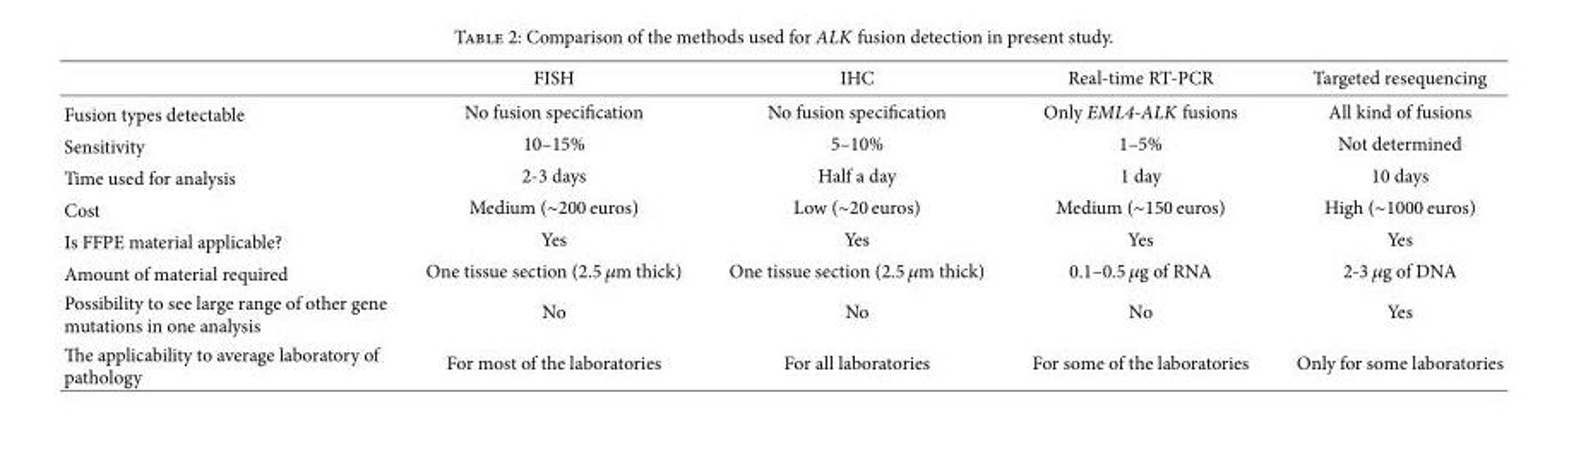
<table><thead><tr><td></td><td>FISH</td><td>IHC</td><td>Real-time RT-PCR</td><td>Targeted resequencing</td></tr></thead><tbody><tr><td>Fusion types detectable</td><td>No fusion speci�cation</td><td>No fusion speci�cation</td><td>Only EML4-ALK fusions</td><td>All kind of fusions</td></tr><tr><td>Sensitivity</td><td>10–15%</td><td>5–10%</td><td>1–5%</td><td>Not determined</td></tr><tr><td>Time used for analysis</td><td>2-3 days</td><td>Half a day</td><td>1 day</td><td>10 days</td></tr><tr><td>Cost</td><td>Medium (∼200 euros)</td><td>Low (∼20 euros)</td><td>Medium (∼150 euros)</td><td>High (∼1000 euros)</td></tr><tr><td>Is FFPE material applicable?</td><td>Yes</td><td>Yes</td><td>Yes</td><td>Yes</td></tr><tr><td>Amount of material required</td><td>One tissue section (2.5 𝜇𝜇m thick)</td><td>One tissue section (2.5 𝜇𝜇m thick)</td><td>0.1–0.5 𝜇𝜇g of RNA</td><td>2-3 𝜇𝜇g of DNA</td></tr><tr><td>Possibility to see large range of other gene mutations in one analysis</td><td>No</td><td>No</td><td>No</td><td>Yes</td></tr><tr><td>e applicability to average laboratory of pathology</td><td>For most of the laboratories</td><td>For all laboratories</td><td>For some of the laboratories</td><td>Only for some laboratories</td></tr></tbody></table>